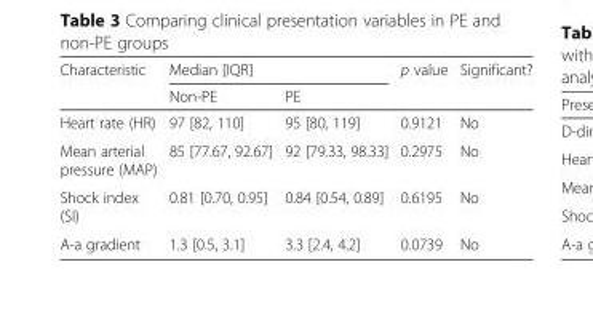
<table><thead><tr><td rowspan="2">Characteristic</td><td colspan="2">Median [IQR]</td><td rowspan="2">p value</td><td rowspan="2">Significant?</td></tr><tr><td>Non-PE</td><td>PE</td></tr></thead><tbody><tr><td>Heart rate (HR)</td><td>97 [82, 110]</td><td>95 [80, 119]</td><td>0.9121</td><td>No</td></tr><tr><td>Mean arterial pressure (MAP)</td><td>85 [77.67, 92.67]</td><td>92 [79.33, 98.33]</td><td>0.2975</td><td>No</td></tr><tr><td>Shock index (SI)</td><td>0.81 [0.70, 0.95]</td><td>0.84 [0.54, 0.89]</td><td>0.6195</td><td>No</td></tr><tr><td>A-a gradient</td><td>1.3 [0.5, 3.1]</td><td>3.3 [2.4, 4.2]</td><td>0.0739</td><td>No</td></tr></tbody></table>